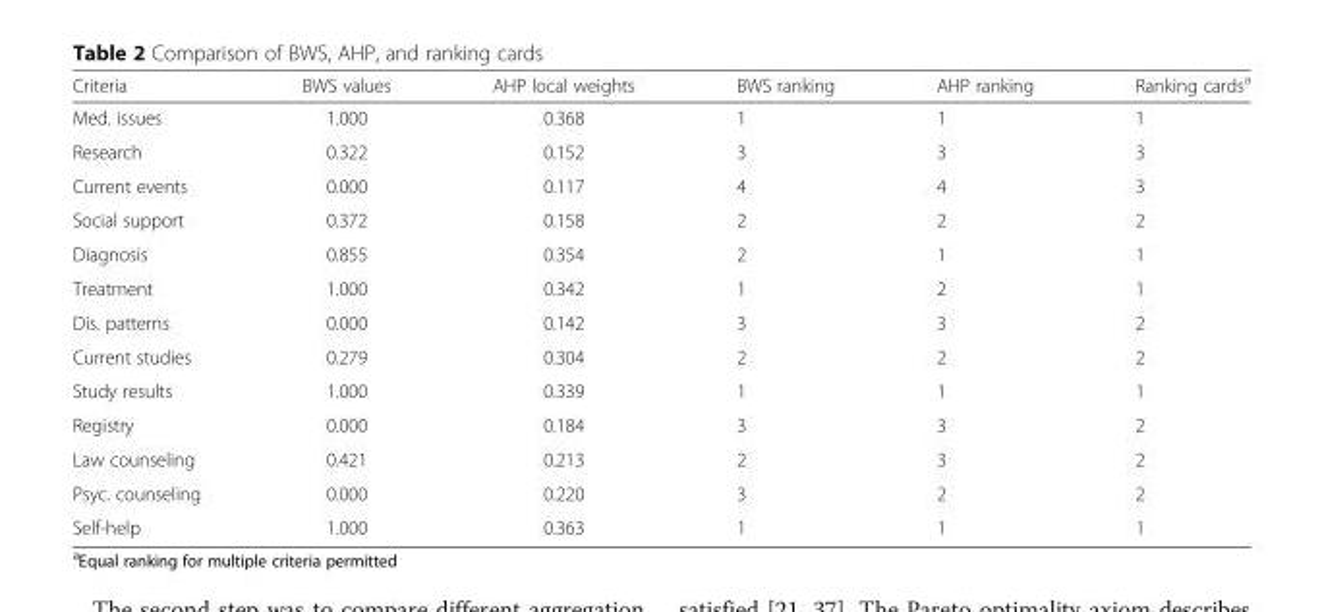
<table><thead><tr><td>Criteria</td><td>BWS values</td><td>AHP local weights</td><td>BWS ranking</td><td>AHP ranking</td><td>Ranking cards<sup>a</sup></td></tr></thead><tbody><tr><td>Med. issues</td><td>1.000</td><td>0.368</td><td>1</td><td>1</td><td>1</td></tr><tr><td>Research</td><td>0.322</td><td>0.152</td><td>3</td><td>3</td><td>3</td></tr><tr><td>Current events</td><td>0.000</td><td>0.117</td><td>4</td><td>4</td><td>3</td></tr><tr><td>Social support</td><td>0.372</td><td>0.158</td><td>2</td><td>2</td><td>2</td></tr><tr><td>Diagnosis</td><td>0.855</td><td>0.354</td><td>2</td><td>1</td><td>1</td></tr><tr><td>Treatment</td><td>1.000</td><td>0.342</td><td>1</td><td>2</td><td>1</td></tr><tr><td>Dis. patterns</td><td>0.000</td><td>0.142</td><td>3</td><td>3</td><td>2</td></tr><tr><td>Current studies</td><td>0.279</td><td>0.304</td><td>2</td><td>2</td><td>2</td></tr><tr><td>Study results</td><td>1.000</td><td>0.339</td><td>1</td><td>1</td><td>1</td></tr><tr><td>Registry</td><td>0.000</td><td>0.184</td><td>3</td><td>3</td><td>2</td></tr><tr><td>Law counseling</td><td>0.421</td><td>0.213</td><td>2</td><td>3</td><td>2</td></tr><tr><td>Psyc. counseling</td><td>0.000</td><td>0.220</td><td>3</td><td>2</td><td>2</td></tr><tr><td>Self-help</td><td>1.000</td><td>0.363</td><td>1</td><td>1</td><td>1</td></tr></tbody></table>